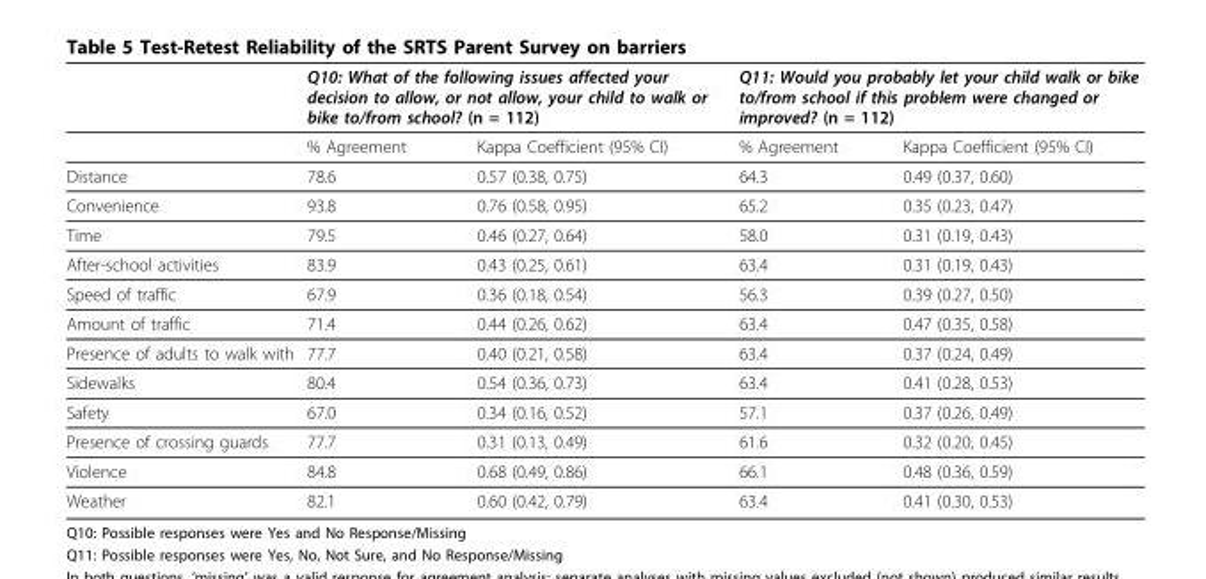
<table><thead><tr><td rowspan="2"></td><td colspan="2">Q10: What of the following issues affected your decision to allow, or not allow, your child to walk or bike to/from school? (n = 112)</td><td colspan="2">Q11: Would you probably let your child walk or bike to/from school if this problem were changed or improved? (n = 112)</td></tr><tr><td>% Agreement</td><td>Kappa Coefficient (95% CI)</td><td>% Agreement</td><td>Kappa Coefficient (95% CI)</td></tr></thead><tbody><tr><td>Distance</td><td>78.6</td><td>0.57 (0.38, 0.75)</td><td>64.3</td><td>0.49 (0.37, 0.60)</td></tr><tr><td>Convenience</td><td>93.8</td><td>0.76 (0.58, 0.95)</td><td>65.2</td><td>0.35 (0.23, 0.47)</td></tr><tr><td>Time</td><td>79.5</td><td>0.46 (0.27, 0.64)</td><td>58.0</td><td>0.31 (0.19, 0.43)</td></tr><tr><td>After-school activities</td><td>83.9</td><td>0.43 (0.25, 0.61)</td><td>63.4</td><td>0.31 (0.19, 0.43)</td></tr><tr><td>Speed of traffic</td><td>67.9</td><td>0.36 (0.18, 0.54)</td><td>56.3</td><td>0.39 (0.27, 0.50)</td></tr><tr><td>Amount of traffic</td><td>71.4</td><td>0.44 (0.26, 0.62)</td><td>63.4</td><td>0.47 (0.35, 0.58)</td></tr><tr><td>Presence of adults to walk with</td><td>77.7</td><td>0.40 (0.21, 0.58)</td><td>63.4</td><td>0.37 (0.24, 0.49)</td></tr><tr><td>Sidewalks</td><td>80.4</td><td>0.54 (0.36, 0.73)</td><td>63.4</td><td>0.41 (0.28, 0.53)</td></tr><tr><td>Safety</td><td>67.0</td><td>0.34 (0.16, 0.52)</td><td>57.1</td><td>0.37 (0.26, 0.49)</td></tr><tr><td>Presence of crossing guards</td><td>77.7</td><td>0.31 (0.13, 0.49)</td><td>61.6</td><td>0.32 (0.20, 0.45)</td></tr><tr><td>Violence</td><td>84.8</td><td>0.68 (0.49, 0.86)</td><td>66.1</td><td>0.48 (0.36, 0.59)</td></tr><tr><td>Weather</td><td>82.1</td><td>0.60 (0.42, 0.79)</td><td>63.4</td><td>0.41 (0.30, 0.53)</td></tr></tbody></table>